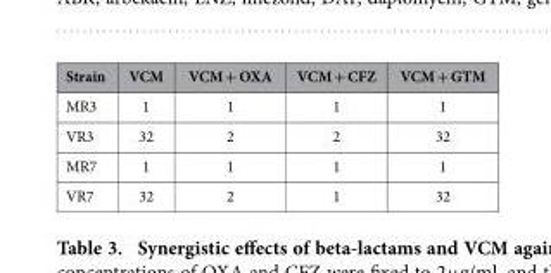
<table><thead><tr><td>Strain</td><td>VCM</td><td>VCM + OXA</td><td>VCM + CFZ</td><td>VCM + GTM</td></tr></thead><tbody><tr><td>MR3</td><td>1</td><td>1</td><td>1</td><td>1</td></tr><tr><td>VR3</td><td>32</td><td>2</td><td>2</td><td>32</td></tr><tr><td>MR7</td><td>1</td><td>1</td><td>1</td><td>1</td></tr><tr><td>VR7</td><td>32</td><td>2</td><td>1</td><td>32</td></tr></tbody></table>